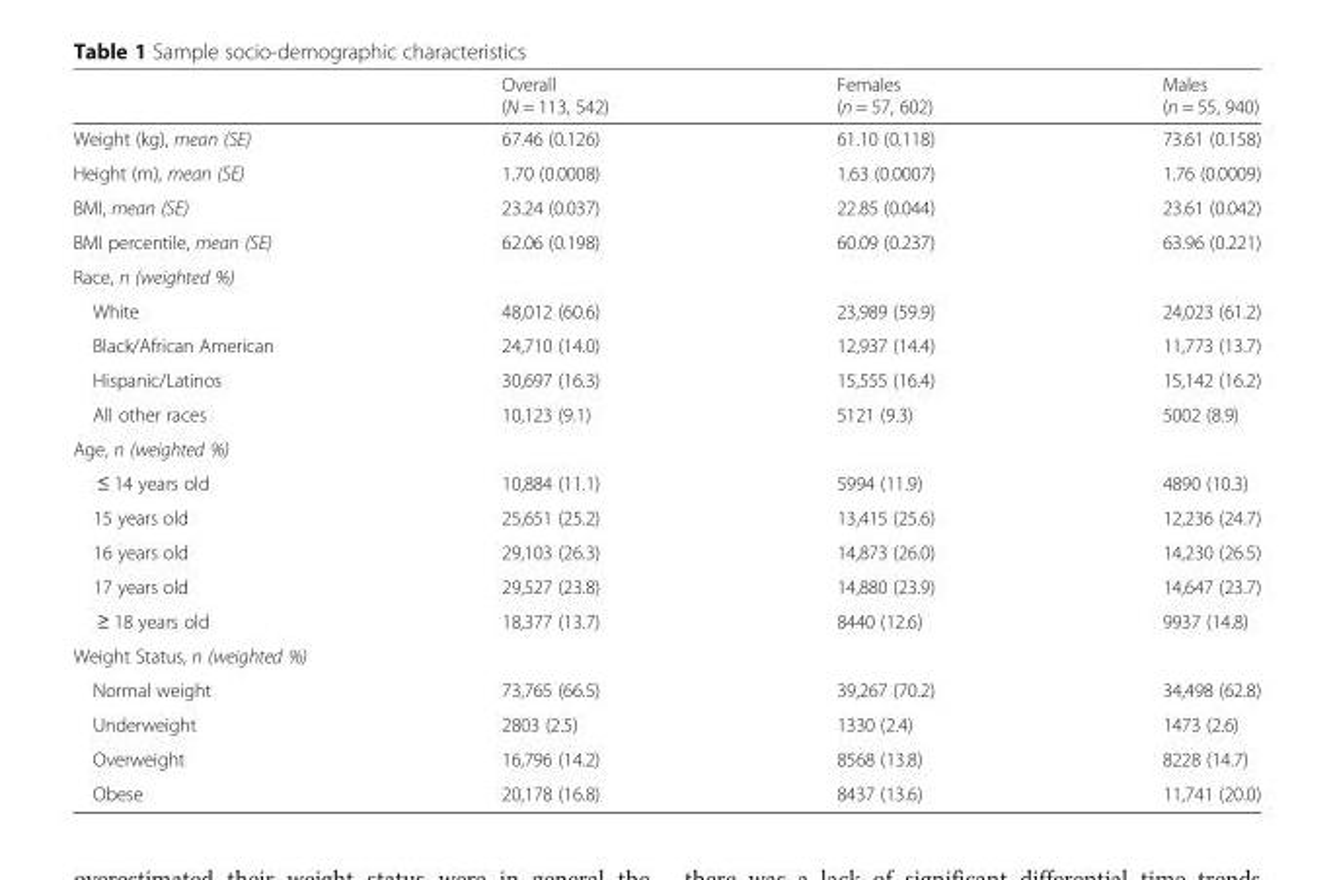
<table><thead><tr><td></td><td>Overall (N = 113, 542)</td><td>Females (n = 57, 602)</td><td>Males (n = 55, 940)</td></tr></thead><tbody><tr><td>Weight (kg), mean (SE)</td><td>67.46 (0.126)</td><td>61.10 (0.118)</td><td>73.61 (0.158)</td></tr><tr><td>Height (m), mean (SE)</td><td>1.70 (0.0008)</td><td>1.63 (0.0007)</td><td>1.76 (0.0009)</td></tr><tr><td>BMI, mean (SE)</td><td>23.24 (0.037)</td><td>22.85 (0.044)</td><td>23.61 (0.042)</td></tr><tr><td>BMI percentile, mean (SE)</td><td>62.06 (0.198)</td><td>60.09 (0.237)</td><td>63.96 (0.221)</td></tr><tr><td colspan="4">Race, n (weighted %)</td></tr><tr><td>White</td><td>48,012 (60.6)</td><td>23,989 (59.9)</td><td>24,023 (61.2)</td></tr><tr><td>Black/African American</td><td>24,710 (14.0)</td><td>12,937 (14.4)</td><td>11,773 (13.7)</td></tr><tr><td>Hispanic/Latinos</td><td>30,697 (16.3)</td><td>15,555 (16.4)</td><td>15,142 (16.2)</td></tr><tr><td>All other races</td><td>10,123 (9.1)</td><td>5121 (9.3)</td><td>5002 (8.9)</td></tr><tr><td colspan="4">Age, n (weighted %)</td></tr><tr><td>≤ 14 years old</td><td>10,884 (11.1)</td><td>5994 (11.9)</td><td>4890 (10.3)</td></tr><tr><td>15 years old</td><td>25,651 (25.2)</td><td>13,415 (25.6)</td><td>12,236 (24.7)</td></tr><tr><td>16 years old</td><td>29,103 (26.3)</td><td>14,873 (26.0)</td><td>14,230 (26.5)</td></tr><tr><td>17 years old</td><td>29,527 (23.8)</td><td>14,880 (23.9)</td><td>14,647 (23.7)</td></tr><tr><td>≥ 18 years old</td><td>18,377 (13.7)</td><td>8440 (12.6)</td><td>9937 (14.8)</td></tr><tr><td colspan="4">Weight Status, n (weighted %)</td></tr><tr><td>Normal weight</td><td>73,765 (66.5)</td><td>39,267 (70.2)</td><td>34,498 (62.8)</td></tr><tr><td>Underweight</td><td>2803 (2.5)</td><td>1330 (2.4)</td><td>1473 (2.6)</td></tr><tr><td>Overweight</td><td>16,796 (14.2)</td><td>8568 (13.8)</td><td>8228 (14.7)</td></tr><tr><td>Obese</td><td>20,178 (16.8)</td><td>8437 (13.6)</td><td>11,741 (20.0)</td></tr></tbody></table>